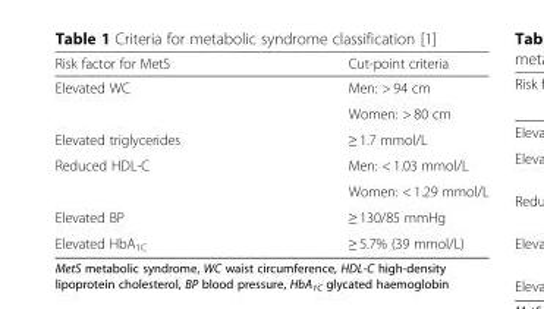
<table><thead><tr><td>Risk factor for MetS</td><td>Cut-point criteria</td></tr></thead><tbody><tr><td rowspan="2">Elevated WC</td><td>Men: &gt; 94 cm</td></tr><tr><td>Women: &gt; 80 cm</td></tr><tr><td>Elevated triglycerides</td><td>≥ 1.7 mmol/L</td></tr><tr><td rowspan="2">Reduced HDL-C</td><td>Men: &lt; 1.03 mmol/L</td></tr><tr><td>Women: &lt; 1.29 mmol/L</td></tr><tr><td>Elevated BP</td><td>≥ 130/85 mmHg</td></tr><tr><td>Elevated HbA<sub>1C</sub></td><td>≥ 5.7% (39 mmol/L)</td></tr></tbody></table>